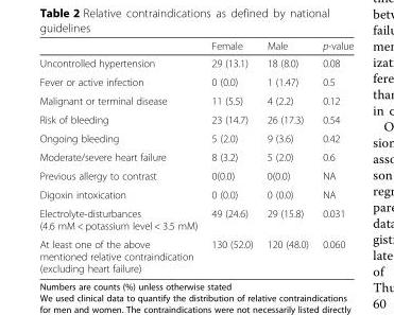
<table><thead><tr><td></td><td>Female</td><td>Male</td><td>p-value</td></tr></thead><tbody><tr><td>Uncontrolled hypertension</td><td>29 (13.1)</td><td>18 (8.0)</td><td>0.08</td></tr><tr><td>Fever or active infection</td><td>0 (0.0)</td><td>1 (1.47)</td><td>0.5</td></tr><tr><td>Malignant or terminal disease</td><td>11 (5.5)</td><td>4 (2.2)</td><td>0.12</td></tr><tr><td>Risk of bleeding</td><td>23 (14.7)</td><td>26 (17.3)</td><td>0.54</td></tr><tr><td>Ongoing bleeding</td><td>5 (2.0)</td><td>9 (3.6)</td><td>0.42</td></tr><tr><td>Moderate/severe heart failure</td><td>8 (3.2)</td><td>5 (2.0)</td><td>0.6</td></tr><tr><td>Previous allergy to contrast</td><td>0(0.0)</td><td>0(0.0)</td><td>NA</td></tr><tr><td>Digoxin intoxication</td><td>0 (0.0)</td><td>0 (0.0)</td><td>NA</td></tr><tr><td>Electrolyte-disturbances (4.6 mM &lt; potassium level &lt; 3.5 mM)</td><td>49 (24.6)</td><td>29 (15.8)</td><td>0.031</td></tr><tr><td>At least one of the above mentioned relative contraindication (excluding heart failure)</td><td>130 (52.0)</td><td>120 (48.0)</td><td>0.060</td></tr></tbody></table>